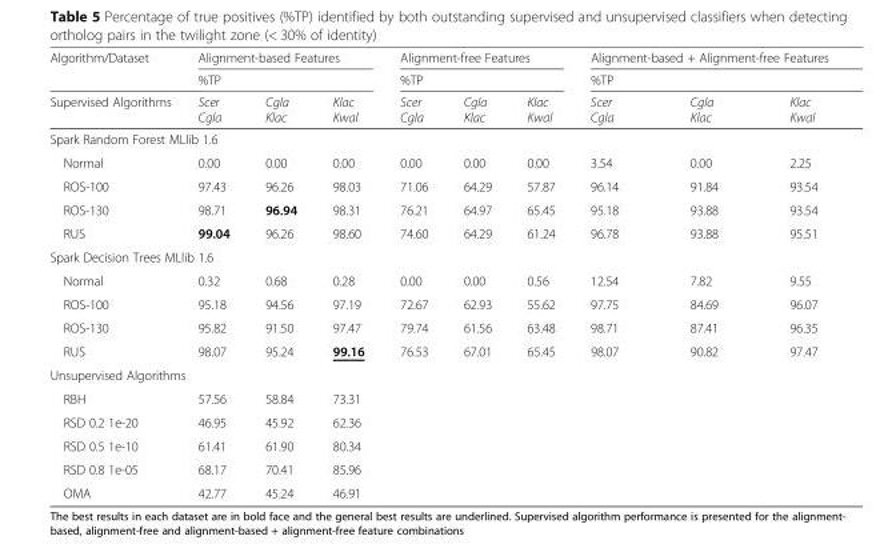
<table><thead><tr><td rowspan="3">Algorithm/Dataset Supervised Algorithms</td><td rowspan="2" colspan="3">Alignment-based Features %TP</td><td rowspan="2" colspan="3">Alignment-free Features %TP</td><td rowspan="2" colspan="3">Alignment-based + Alignment-free Features %TP</td></tr><tr></tr><tr><td>Scer Cgla</td><td>Cgla Klac</td><td>Klac Kwal</td><td>Scer Cgla</td><td>Cgla Klac</td><td>Klac Kwal</td><td>Scer Cgla</td><td>Cgla Klac</td><td>Klac Kwal</td></tr></thead><tbody><tr><td colspan="10">Spark Random Forest MLlib 1.6</td></tr><tr><td>Normal</td><td>0.00</td><td>0.00</td><td>0.00</td><td>0.00</td><td>0.00</td><td>0.00</td><td>3.54</td><td>0.00</td><td>2.25</td></tr><tr><td>ROS-100</td><td>97.43</td><td>96.26</td><td>98.03</td><td>71.06</td><td>64.29</td><td>57.87</td><td>96.14</td><td>91.84</td><td>93.54</td></tr><tr><td>ROS-130</td><td>98.71</td><td>96.94</td><td>98.31</td><td>76.21</td><td>64.97</td><td>65.45</td><td>95.18</td><td>93.88</td><td>93.54</td></tr><tr><td>RUS</td><td>99.04</td><td>96.26</td><td>98.60</td><td>74.60</td><td>64.29</td><td>61.24</td><td>96.78</td><td>93.88</td><td>95.51</td></tr><tr><td colspan="10">Spark Decision Trees MLlib 1.6</td></tr><tr><td>Normal</td><td>0.32</td><td>0.68</td><td>0.28</td><td>0.00</td><td>0.00</td><td>0.56</td><td>12.54</td><td>7.82</td><td>9.55</td></tr><tr><td>ROS-100</td><td>95.18</td><td>94.56</td><td>97.19</td><td>72.67</td><td>62.93</td><td>55.62</td><td>97.75</td><td>84.69</td><td>96.07</td></tr><tr><td>ROS-130</td><td>95.82</td><td>91.50</td><td>97.47</td><td>79.74</td><td>61.56</td><td>63.48</td><td>98.71</td><td>87.41</td><td>96.35</td></tr><tr><td>RUS</td><td>98.07</td><td>95.24</td><td>99.16</td><td>76.53</td><td>67.01</td><td>65.45</td><td>98.07</td><td>90.82</td><td>97.47</td></tr><tr><td colspan="10">Unsupervised Algorithms</td></tr><tr><td>RBH</td><td>57.56</td><td>58.84</td><td>73.31</td><td></td><td></td><td></td><td></td><td></td><td></td></tr><tr><td>RSD 0.2 1e-20</td><td>46.95</td><td>45.92</td><td>62.36</td><td></td><td></td><td></td><td></td><td></td><td></td></tr><tr><td>RSD 0.5 1e-10</td><td>61.41</td><td>61.90</td><td>80.34</td><td></td><td></td><td></td><td></td><td></td><td></td></tr><tr><td>RSD 0.8 1e-05</td><td>68.17</td><td>70.41</td><td>85.96</td><td></td><td></td><td></td><td></td><td></td><td></td></tr><tr><td>OMA</td><td>42.77</td><td>45.24</td><td>46.91</td><td></td><td></td><td></td><td></td><td></td><td></td></tr></tbody></table>